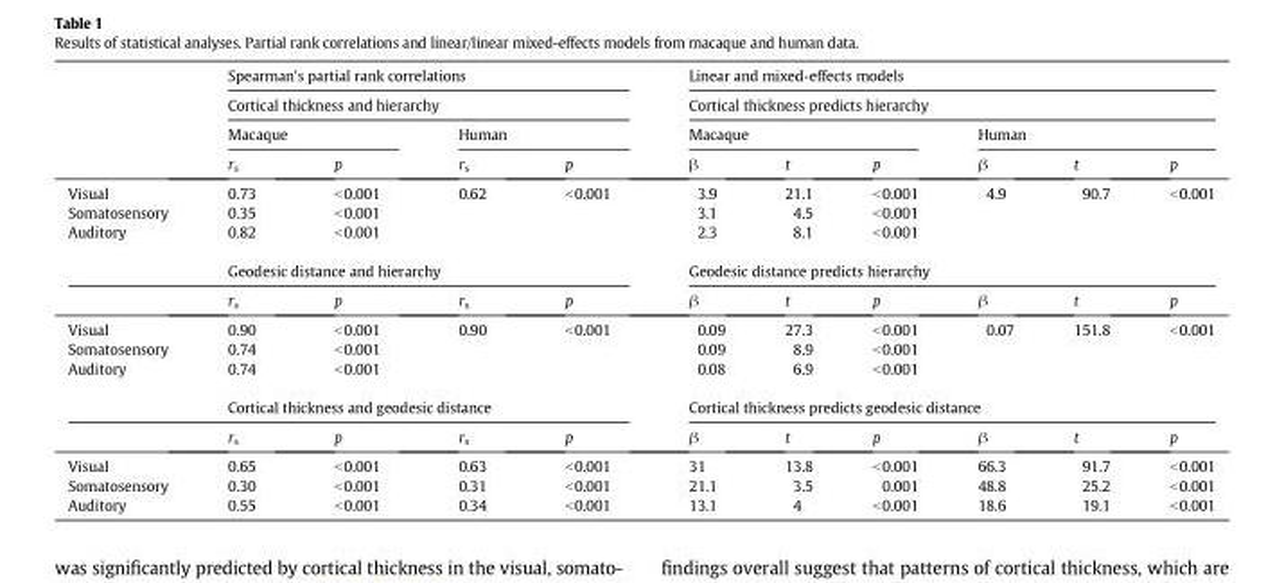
<table><thead><tr><td rowspan="4"></td><td rowspan="2" colspan="4">Spearman&#x27;s partial rank correlations Cortical thickness and hierarchy</td><td rowspan="2" colspan="6">Linear and mixed-effects models Cortical thickness predicts hierarchy</td></tr><tr></tr><tr><td colspan="2">Macaque</td><td colspan="2">Human</td><td colspan="3">Macaque</td><td colspan="3">Human</td></tr><tr><td>r<sub>s</sub></td><td>p</td><td>r<sub>s</sub></td><td>p</td><td>β</td><td>t</td><td>p</td><td>β</td><td>t</td><td>p</td></tr></thead><tbody><tr><td>Visual</td><td>0.73</td><td>&lt;0.001</td><td>0.62</td><td>&lt;0.001</td><td>3.9</td><td>21.1</td><td>&lt;0.001</td><td>4.9</td><td>90.7</td><td>&lt;0.001</td></tr><tr><td>Somatosensory</td><td>0.35</td><td>&lt;0.001</td><td></td><td></td><td>3.1</td><td>4.5</td><td>&lt;0.001</td><td></td><td></td><td></td></tr><tr><td rowspan="3">Auditory</td><td>0.82</td><td>&lt;0.001</td><td></td><td></td><td>2.3</td><td>8.1</td><td>&lt;0.001</td><td></td><td></td><td></td></tr><tr><td colspan="4">Geodesic distance and hierarchy</td><td colspan="6">Geodesic distance predicts hierarchy</td></tr><tr><td>r<sub>s</sub></td><td>p</td><td>r<sub>s</sub></td><td>p</td><td>β</td><td>t</td><td>p</td><td>β</td><td>t</td><td>p</td></tr><tr><td>Visual</td><td>0.90</td><td>&lt;0.001</td><td>0.90</td><td>&lt;0.001</td><td>0.09</td><td>27.3</td><td>&lt;0.001</td><td>0.07</td><td>151.8</td><td>&lt;0.001</td></tr><tr><td>Somatosensory</td><td>0.74</td><td>&lt;0.001</td><td></td><td></td><td>0.09</td><td>8.9</td><td>&lt;0.001</td><td></td><td></td><td></td></tr><tr><td rowspan="3">Auditory</td><td>0.74</td><td>&lt;0.001</td><td></td><td></td><td>0.08</td><td>6.9</td><td>&lt;0.001</td><td></td><td></td><td></td></tr><tr><td colspan="4">Cortical thickness and geodesic distance</td><td colspan="6">Cortical thickness predicts geodesic distance</td></tr><tr><td>r<sub>s</sub></td><td>p</td><td>r<sub>s</sub></td><td>p</td><td>β</td><td>t</td><td>p</td><td>β</td><td>t</td><td>p</td></tr><tr><td>Visual</td><td>0.65</td><td>&lt;0.001</td><td>0.63</td><td>&lt;0.001</td><td>31</td><td>13.8</td><td>&lt;0.001</td><td>66.3</td><td>91.7</td><td>&lt;0.001</td></tr><tr><td>Somatosensory</td><td>0.30</td><td>&lt;0.001</td><td>0.31</td><td>&lt;0.001</td><td>21.1</td><td>3.5</td><td>0.001</td><td>48.8</td><td>25.2</td><td>&lt;0.001</td></tr><tr><td>Auditory</td><td>0.55</td><td>&lt;0.001</td><td>0.34</td><td>&lt;0.001</td><td>13.1</td><td>4</td><td>&lt;0.001</td><td>18.6</td><td>19.1</td><td>&lt;0.001</td></tr></tbody></table>